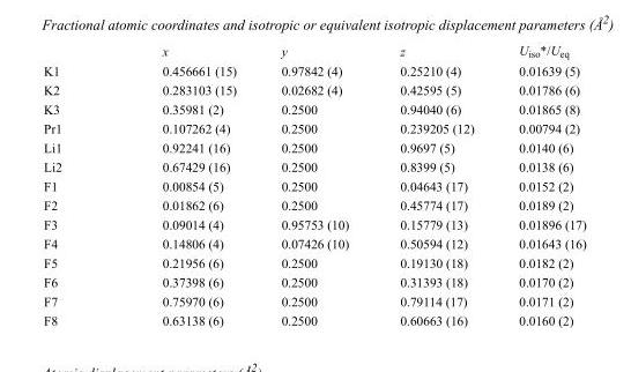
<table><thead><tr><td></td><td>x</td><td>y</td><td>z</td><td>U<sub>iso</sub>*/U<sub>eq</sub></td></tr></thead><tbody><tr><td>K1</td><td>0.456661 (15)</td><td>0.97842 (4)</td><td>0.25210 (4)</td><td>0.01639 (5)</td></tr><tr><td>K2</td><td>0.283103 (15)</td><td>0.02682 (4)</td><td>0.42595 (5)</td><td>0.01786 (6)</td></tr><tr><td>K3</td><td>0.35981 (2)</td><td>0.2500</td><td>0.94040 (6)</td><td>0.01865 (8)</td></tr><tr><td>Pr1</td><td>0.107262 (4)</td><td>0.2500</td><td>0.239205 (12)</td><td>0.00794 (2)</td></tr><tr><td>Li1</td><td>0.92241 (16)</td><td>0.2500</td><td>0.9697 (5)</td><td>0.0140 (6)</td></tr><tr><td>Li2</td><td>0.67429 (16)</td><td>0.2500</td><td>0.8399 (5)</td><td>0.0138 (6)</td></tr><tr><td>F1</td><td>0.00854 (5)</td><td>0.2500</td><td>0.04643 (17)</td><td>0.0152 (2)</td></tr><tr><td>F2</td><td>0.01862 (6)</td><td>0.2500</td><td>0.45774 (17)</td><td>0.0189 (2)</td></tr><tr><td>F3</td><td>0.09014 (4)</td><td>0.95753 (10)</td><td>0.15779 (13)</td><td>0.01896 (17)</td></tr><tr><td>F4</td><td>0.14806 (4)</td><td>0.07426 (10)</td><td>0.50594 (12)</td><td>0.01643 (16)</td></tr><tr><td>F5</td><td>0.21956 (6)</td><td>0.2500</td><td>0.19130 (18)</td><td>0.0182 (2)</td></tr><tr><td>F6</td><td>0.37398 (6)</td><td>0.2500</td><td>0.31393 (18)</td><td>0.0170 (2)</td></tr><tr><td>F7</td><td>0.75970 (6)</td><td>0.2500</td><td>0.79114 (17)</td><td>0.0171 (2)</td></tr><tr><td>F8</td><td>0.63138 (6)</td><td>0.2500</td><td>0.60663 (16)</td><td>0.0160 (2)</td></tr></tbody></table>